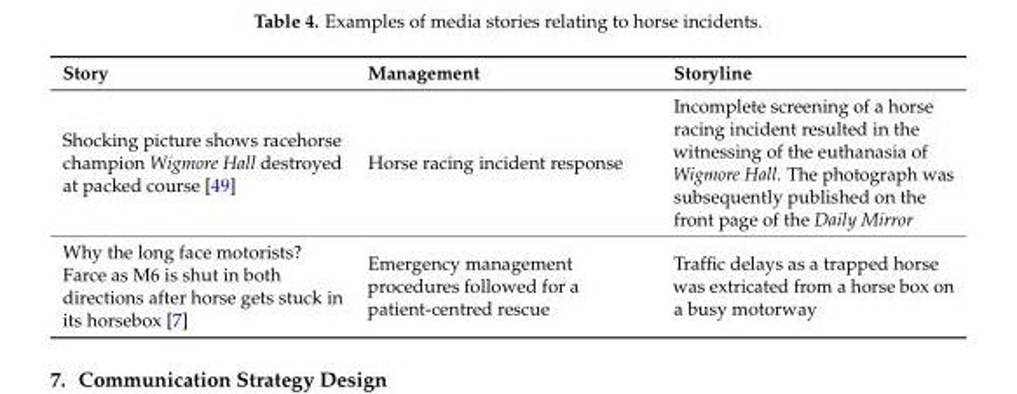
<table><thead><tr><td>Story</td><td>Management</td><td>Storyline</td></tr></thead><tbody><tr><td>Shocking picture shows racehorse champion Wigmore Hall destroyed at packed course [49]</td><td>Horse racing incident response</td><td>Incomplete screening of a horse racing incident resulted in the witnessing of the euthanasia of Wigmore Hall. The photograph was subsequently published on the front page of the Daily Mirror</td></tr><tr><td>Why the long face motorists? Farce as M6 is shut in both directions after horse gets stuck in its horsebox [7]</td><td>Emergency management procedures followed for a patient-centred rescue</td><td>Traffic delays as a trapped horse was extricated from a horse box on a busy motorway</td></tr></tbody></table>